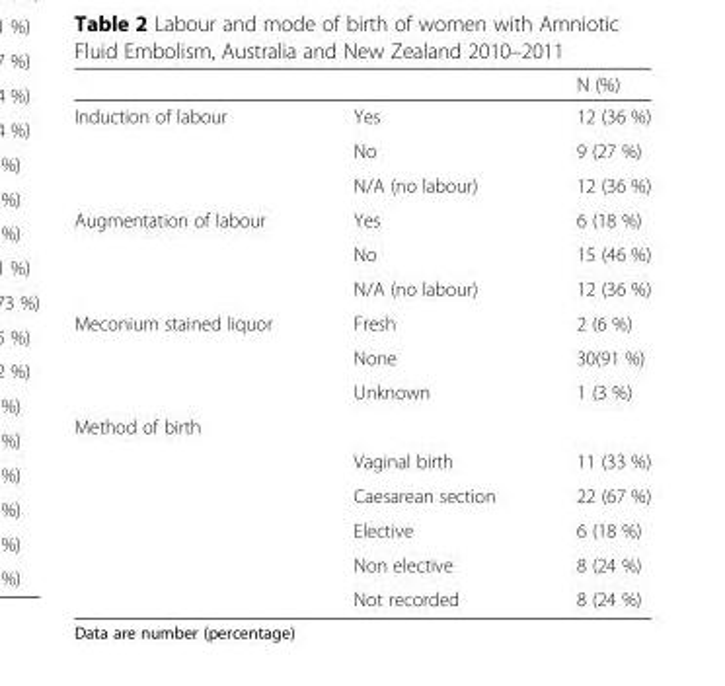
<table><thead><tr><td></td><td></td><td>N (%)</td></tr></thead><tbody><tr><td rowspan="3">Induction of labour</td><td>Yes</td><td>12 (36 %)</td></tr><tr><td>No</td><td>9 (27 %)</td></tr><tr><td>N/A (no labour)</td><td>12 (36 %)</td></tr><tr><td rowspan="3">Augmentation of labour</td><td>Yes</td><td>6 (18 %)</td></tr><tr><td>No</td><td>15 (46 %)</td></tr><tr><td>N/A (no labour)</td><td>12 (36 %)</td></tr><tr><td rowspan="3">Meconium stained liquor</td><td>Fresh</td><td>2 (6 %)</td></tr><tr><td>None</td><td>30(91 %)</td></tr><tr><td>Unknown</td><td>1 (3 %)</td></tr><tr><td colspan="3">Method of birth</td></tr><tr><td></td><td>Vaginal birth</td><td>11 (33 %)</td></tr><tr><td></td><td>Caesarean section</td><td>22 (67 %)</td></tr><tr><td></td><td>Elective</td><td>6 (18 %)</td></tr><tr><td></td><td>Non elective</td><td>8 (24 %)</td></tr><tr><td></td><td>Not recorded</td><td>8 (24 %)</td></tr></tbody></table>